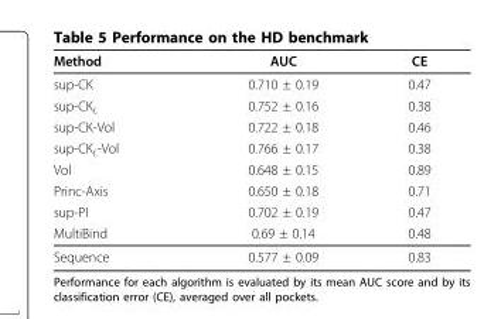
<table><thead><tr><td>Method</td><td>AUC</td><td>CE</td></tr></thead><tbody><tr><td>sup-CK</td><td>0.710 ± 0.19</td><td>0.47</td></tr><tr><td>sup-CK<sub>L</sub></td><td>0.752 ± 0.16</td><td>0.38</td></tr><tr><td>sup-CK-Vol</td><td>0.722 ± 0.18</td><td>0.46</td></tr><tr><td>sup-CK<sub>L</sub>-Vol</td><td>0.766 ± 0.17</td><td>0.38</td></tr><tr><td>Vol</td><td>0.648 ± 0.15</td><td>0.89</td></tr><tr><td>Princ-Axis</td><td>0.650 ± 0.18</td><td>0.71</td></tr><tr><td>sup-PI</td><td>0.702 ± 0.19</td><td>0.47</td></tr><tr><td>MultiBind</td><td>0.69 ± 0.14</td><td>0.48</td></tr><tr><td>Sequence</td><td>0.577 ± 0.09</td><td>0.83</td></tr></tbody></table>